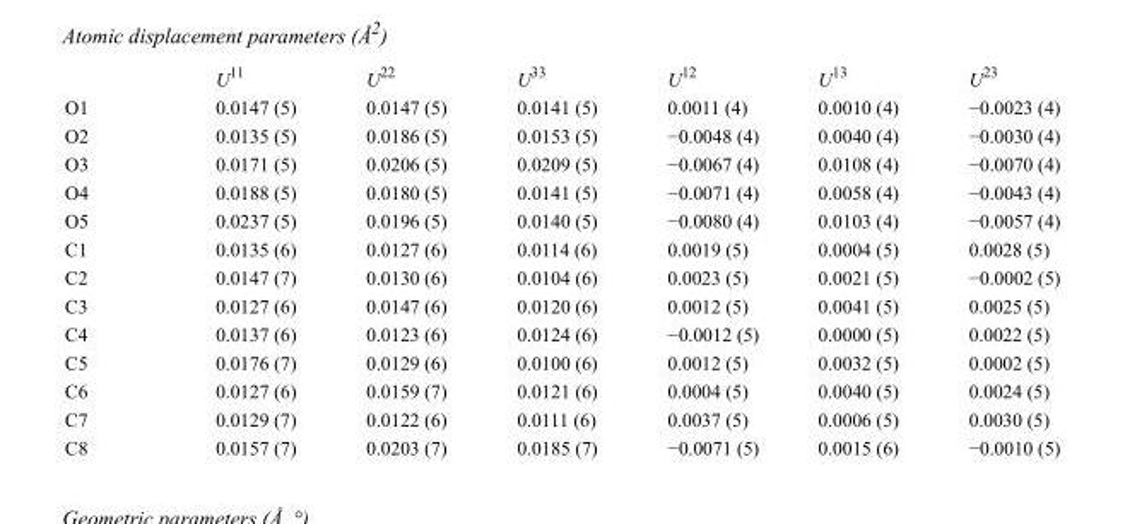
<table><thead><tr><td></td><td>U<sup>11</sup></td><td>U<sup>22</sup></td><td>U<sup>33</sup></td><td>U<sup>12</sup></td><td>U<sup>13</sup></td><td>U<sup>23</sup></td></tr></thead><tbody><tr><td>O1</td><td>0.0147 (5)</td><td>0.0147 (5)</td><td>0.0141 (5)</td><td>0.0011 (4)</td><td>0.0010 (4)</td><td>−0.0023 (4)</td></tr><tr><td>O2</td><td>0.0135 (5)</td><td>0.0186 (5)</td><td>0.0153 (5)</td><td>−0.0048 (4)</td><td>0.0040 (4)</td><td>−0.0030 (4)</td></tr><tr><td>O3</td><td>0.0171 (5)</td><td>0.0206 (5)</td><td>0.0209 (5)</td><td>−0.0067 (4)</td><td>0.0108 (4)</td><td>−0.0070 (4)</td></tr><tr><td>O4</td><td>0.0188 (5)</td><td>0.0180 (5)</td><td>0.0141 (5)</td><td>−0.0071 (4)</td><td>0.0058 (4)</td><td>−0.0043 (4)</td></tr><tr><td>O5</td><td>0.0237 (5)</td><td>0.0196 (5)</td><td>0.0140 (5)</td><td>−0.0080 (4)</td><td>0.0103 (4)</td><td>−0.0057 (4)</td></tr><tr><td>C1</td><td>0.0135 (6)</td><td>0.0127 (6)</td><td>0.0114 (6)</td><td>0.0019 (5)</td><td>0.0004 (5)</td><td>0.0028 (5)</td></tr><tr><td>C2</td><td>0.0147 (7)</td><td>0.0130 (6)</td><td>0.0104 (6)</td><td>0.0023 (5)</td><td>0.0021 (5)</td><td>−0.0002 (5)</td></tr><tr><td>C3</td><td>0.0127 (6)</td><td>0.0147 (6)</td><td>0.0120 (6)</td><td>0.0012 (5)</td><td>0.0041 (5)</td><td>0.0025 (5)</td></tr><tr><td>C4</td><td>0.0137 (6)</td><td>0.0123 (6)</td><td>0.0124 (6)</td><td>−0.0012 (5)</td><td>0.0000 (5)</td><td>0.0022 (5)</td></tr><tr><td>C5</td><td>0.0176 (7)</td><td>0.0129 (6)</td><td>0.0100 (6)</td><td>0.0012 (5)</td><td>0.0032 (5)</td><td>0.0002 (5)</td></tr><tr><td>C6</td><td>0.0127 (6)</td><td>0.0159 (7)</td><td>0.0121 (6)</td><td>0.0004 (5)</td><td>0.0040 (5)</td><td>0.0024 (5)</td></tr><tr><td>C7</td><td>0.0129 (7)</td><td>0.0122 (6)</td><td>0.0111 (6)</td><td>0.0037 (5)</td><td>0.0006 (5)</td><td>0.0030 (5)</td></tr><tr><td>C8</td><td>0.0157 (7)</td><td>0.0203 (7)</td><td>0.0185 (7)</td><td>−0.0071 (5)</td><td>0.0015 (6)</td><td>−0.0010 (5)</td></tr></tbody></table>